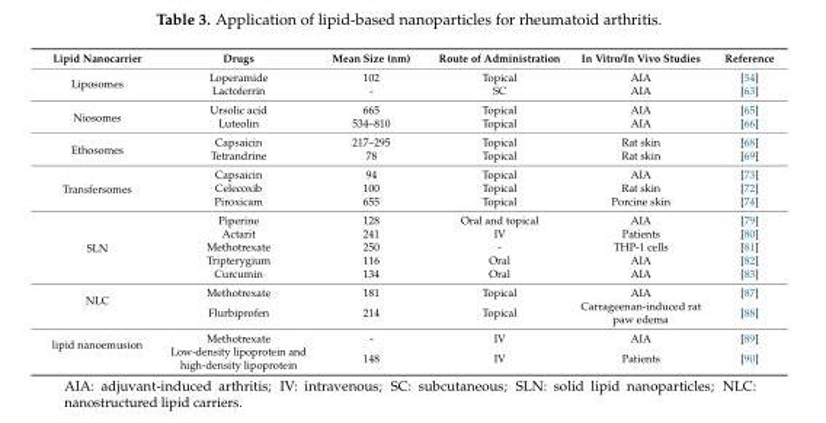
<table><thead><tr><td>Lipid Nanocarrier</td><td>Drugs</td><td>Mean Size (nm)</td><td>Route of Administration</td><td>In Vitro/In Vivo Studies</td><td>Reference</td></tr></thead><tbody><tr><td rowspan="2">Liposomes</td><td>Loperamide</td><td>102</td><td>Topical</td><td>AIA</td><td>[54]</td></tr><tr><td>Lactoferrin</td><td>-</td><td>SC</td><td>AIA</td><td>[63]</td></tr><tr><td rowspan="2">Niosomes</td><td>Ursolic acid</td><td>665</td><td>Topical</td><td>AIA</td><td>[65]</td></tr><tr><td>Luteolin</td><td>534–810</td><td>Topical</td><td>AIA</td><td>[66]</td></tr><tr><td rowspan="2">Ethosomes</td><td>Capsaicin</td><td>217–295</td><td>Topical</td><td>Rat skin</td><td>[68]</td></tr><tr><td>Tetrandrine</td><td>78</td><td>Topical</td><td>Rat skin</td><td>[69]</td></tr><tr><td rowspan="3">Transfersomes</td><td>Capsaicin</td><td>94</td><td>Topical</td><td>AIA</td><td>[73]</td></tr><tr><td>Celecoxib</td><td>100</td><td>Topical</td><td>Rat skin</td><td>[72]</td></tr><tr><td>Piroxicam</td><td>655</td><td>Topical</td><td>Porcine skin</td><td>[74]</td></tr><tr><td rowspan="5">SLN</td><td>Piperine</td><td>128</td><td>Oral and topical</td><td>AIA</td><td>[79]</td></tr><tr><td>Actarit</td><td>241</td><td>IV</td><td>Patients</td><td>[80]</td></tr><tr><td>Methotrexate</td><td>250</td><td>-</td><td>THP-1 cells</td><td>[81]</td></tr><tr><td>Tripterygium</td><td>116</td><td>Oral</td><td>AIA</td><td>[82]</td></tr><tr><td>Curcumin</td><td>134</td><td>Oral</td><td>AIA</td><td>[83]</td></tr><tr><td rowspan="2">NLC</td><td>Methotrexate</td><td>181</td><td>Topical</td><td>AIA</td><td>[87]</td></tr><tr><td>Flurbiprofen</td><td>214</td><td>Topical</td><td>Carrageenan-induced rat paw edema</td><td>[88]</td></tr><tr><td rowspan="2">lipid nanoemusion</td><td>Methotrexate</td><td>-</td><td>IV</td><td>AIA</td><td>[89]</td></tr><tr><td>Low-density lipoprotein and high-density lipoprotein</td><td>148</td><td>IV</td><td>Patients</td><td>[90]</td></tr></tbody></table>